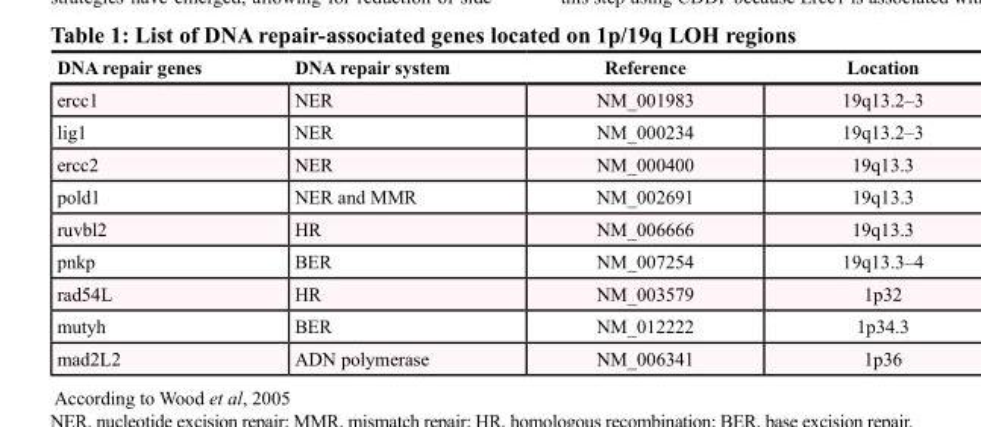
<table><thead><tr><td>DNA repair genes</td><td>DNA repair system</td><td>Reference</td><td>Location</td></tr></thead><tbody><tr><td>ercc1</td><td>NER</td><td>NM_001983</td><td>19q13.2–3</td></tr><tr><td>lig1</td><td>NER</td><td>NM_000234</td><td>19q13.2–3</td></tr><tr><td>ercc2</td><td>NER</td><td>NM_000400</td><td>19q13.3</td></tr><tr><td>pold1</td><td>NER and MMR</td><td>NM_002691</td><td>19q13.3</td></tr><tr><td>ruvbl2</td><td>HR</td><td>NM_006666</td><td>19q13.3</td></tr><tr><td>pnkp</td><td>BER</td><td>NM_007254</td><td>19q13.3–4</td></tr><tr><td>rad54L</td><td>HR</td><td>NM_003579</td><td>1p32</td></tr><tr><td>mutyh</td><td>BER</td><td>NM_012222</td><td>1p34.3</td></tr><tr><td>mad2L2</td><td>ADN polymerase</td><td>NM_006341</td><td>1p36</td></tr></tbody></table>